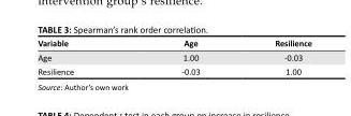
<table><thead><tr><td>Variable</td><td>Age</td><td>Resilience</td></tr></thead><tbody><tr><td>Age</td><td>1.00</td><td>-0.03</td></tr><tr><td>Resilience</td><td>-0.03</td><td>1.00</td></tr></tbody></table>